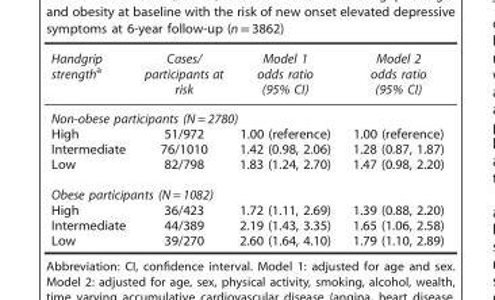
<table><thead><tr><td>Handgrip strength<sup>a</sup></td><td>Cases/ participants at risk</td><td>Model 1 odds ratio (95% CI)</td><td>Model 2 odds ratio (95% CI)</td></tr></thead><tbody><tr><td colspan="4">Non-obese participants (N = 2780)</td></tr><tr><td>High</td><td>51/972</td><td>1.00 (reference)</td><td>1.00 (reference)</td></tr><tr><td>Intermediate</td><td>76/1010</td><td>1.42 (0.98, 2.06)</td><td>1.28 (0.87, 1.87)</td></tr><tr><td>Low</td><td>82/798</td><td>1.83 (1.24, 2.70)</td><td>1.47 (0.98, 2.20)</td></tr><tr><td colspan="4">Obese participants (N = 1082)</td></tr><tr><td>High</td><td>36/423</td><td>1.72 (1.11, 2.69)</td><td>1.39 (0.88, 2.20)</td></tr><tr><td>Intermediate</td><td>44/389</td><td>2.19 (1.43, 3.35)</td><td>1.65 (1.06, 2.58)</td></tr><tr><td>Low</td><td>39/270</td><td>2.60 (1.64, 4.10)</td><td>1.79 (1.10, 2.89)</td></tr></tbody></table>